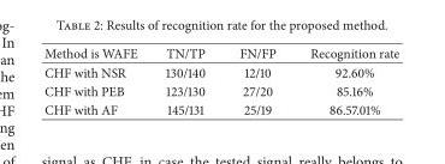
<table><thead><tr><td>Method is WAFE</td><td>TN/TP</td><td>FN/FP</td><td>Recognition rate</td></tr></thead><tbody><tr><td>CHF with NSR</td><td>130/140</td><td>12/10</td><td>92.60%</td></tr><tr><td>CHF with PEB</td><td>123/130</td><td>27/20</td><td>85.16%</td></tr><tr><td>CHF with AF</td><td>145/131</td><td>25/19</td><td>86.57.01%</td></tr></tbody></table>